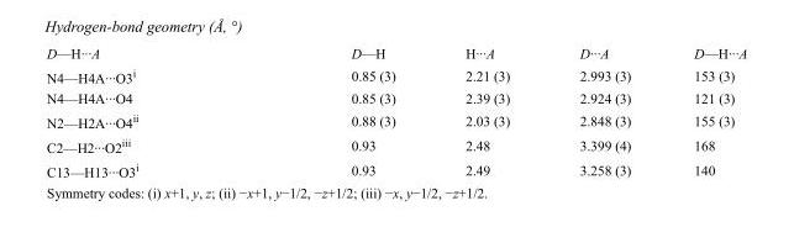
<table><tbody><tr><td>D—H···A</td><td>D—H</td><td>H···A</td><td>D···A</td><td>D—H···A</td></tr><tr><td>N4—H4A···O3<sup>i</sup></td><td>0.85 (3)</td><td>2.21 (3)</td><td>2.993 (3)</td><td>153 (3)</td></tr><tr><td>N4—H4A···O4</td><td>0.85 (3)</td><td>2.39 (3)</td><td>2.924 (3)</td><td>121 (3)</td></tr><tr><td>N2—H2A···O4<sup>ii</sup></td><td>0.88 (3)</td><td>2.03 (3)</td><td>2.848 (3)</td><td>155 (3)</td></tr><tr><td>C2—H2···O2<sup>iii</sup></td><td>0.93</td><td>2.48</td><td>3.399 (4)</td><td>168</td></tr><tr><td>C13—H13···O3<sup>i</sup></td><td>0.93</td><td>2.49</td><td>3.258 (3)</td><td>140</td></tr></tbody></table>